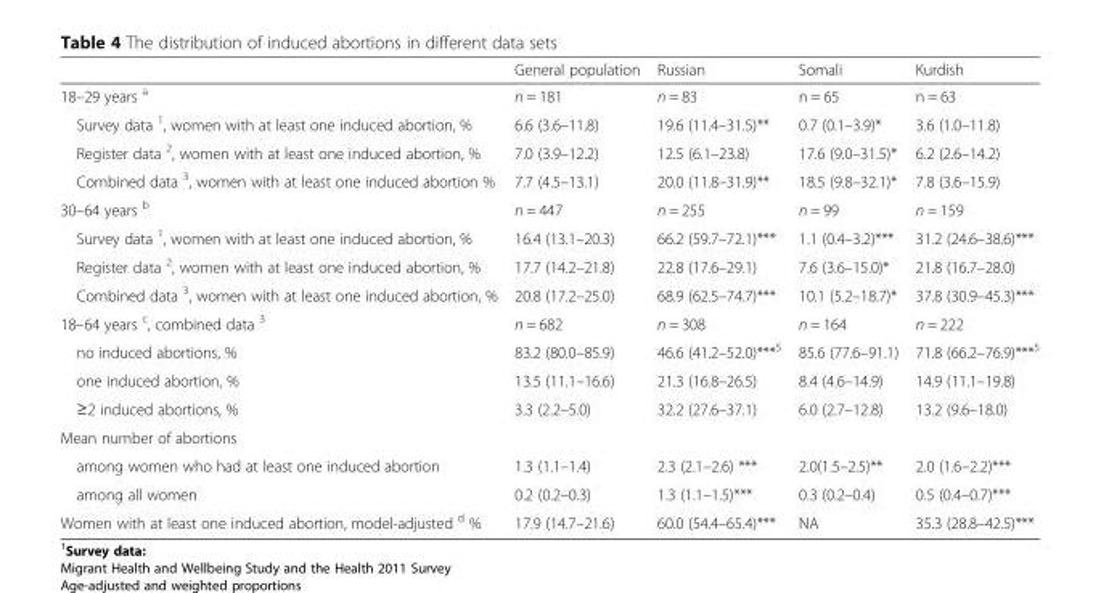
<table><thead><tr><td></td><td>General population</td><td>Russian</td><td>Somali</td><td>Kurdish</td></tr></thead><tbody><tr><td>18–29 years <sup>a</sup></td><td>n = 181</td><td>n = 83</td><td>n = 65</td><td>n = 63</td></tr><tr><td>Survey data <sup>1</sup>, women with at least one induced abortion, %</td><td>6.6 (3.6–11.8)</td><td>19.6 (11.4–31.5)**</td><td>0.7 (0.1–3.9)*</td><td>3.6 (1.0–11.8)</td></tr><tr><td>Register data <sup>2</sup>, women with at least one induced abortion, %</td><td>7.0 (3.9–12.2)</td><td>12.5 (6.1–23.8)</td><td>17.6 (9.0–31.5)*</td><td>6.2 (2.6–14.2)</td></tr><tr><td>Combined data <sup>3</sup>, women with at least one induced abortion %</td><td>7.7 (4.5–13.1)</td><td>20.0 (11.8–31.9)**</td><td>18.5 (9.8–32.1)*</td><td>7.8 (3.6–15.9)</td></tr><tr><td>30–64 years <sup>b</sup></td><td>n = 447</td><td>n = 255</td><td>n = 99</td><td>n = 159</td></tr><tr><td>Survey data <sup>1</sup>, women with at least one induced abortion, %</td><td>16.4 (13.1–20.3)</td><td>66.2 (59.7–72.1)***</td><td>1.1 (0.4–3.2)***</td><td>31.2 (24.6–38.6)***</td></tr><tr><td>Register data <sup>2</sup>, women with at least one induced abortion, %</td><td>17.7 (14.2–21.8)</td><td>22.8 (17.6–29.1)</td><td>7.6 (3.6–15.0)*</td><td>21.8 (16.7–28.0)</td></tr><tr><td>Combined data <sup>3</sup>, women with at least one induced abortion, %</td><td>20.8 (17.2–25.0)</td><td>68.9 (62.5–74.7)***</td><td>10.1 (5.2–18.7)*</td><td>37.8 (30.9–45.3)***</td></tr><tr><td>18–64 years <sup>c</sup>, combined data <sup>3</sup></td><td>n = 682</td><td>n = 308</td><td>n = 164</td><td>n = 222</td></tr><tr><td>no induced abortions, %</td><td>83.2 (80.0–85.9)</td><td>46.6 (41.2–52.0)***<sup>5</sup></td><td>85.6 (77.6–91.1)</td><td>71.8 (66.2–76.9)***<sup>5</sup></td></tr><tr><td>one induced abortion, %</td><td>13.5 (11.1–16.6)</td><td>21.3 (16.8–26.5)</td><td>8.4 (4.6–14.9)</td><td>14.9 (11.1–19.8)</td></tr><tr><td>≥2 induced abortions, %</td><td>3.3 (2.2–5.0)</td><td>32.2 (27.6–37.1)</td><td>6.0 (2.7–12.8)</td><td>13.2 (9.6–18.0)</td></tr><tr><td colspan="5">Mean number of abortions</td></tr><tr><td>among women who had at least one induced abortion</td><td>1.3 (1.1–1.4)</td><td>2.3 (2.1–2.6) ***</td><td>2.0(1.5–2.5)**</td><td>2.0 (1.6–2.2)***</td></tr><tr><td>among all women</td><td>0.2 (0.2–0.3)</td><td>1.3 (1.1–1.5)***</td><td>0.3 (0.2–0.4)</td><td>0.5 (0.4–0.7)***</td></tr><tr><td>Women with at least one induced abortion, model-adjusted <sup>d</sup> %</td><td>17.9 (14.7–21.6)</td><td>60.0 (54.4–65.4)***</td><td>NA</td><td>35.3 (28.8–42.5)***</td></tr></tbody></table>